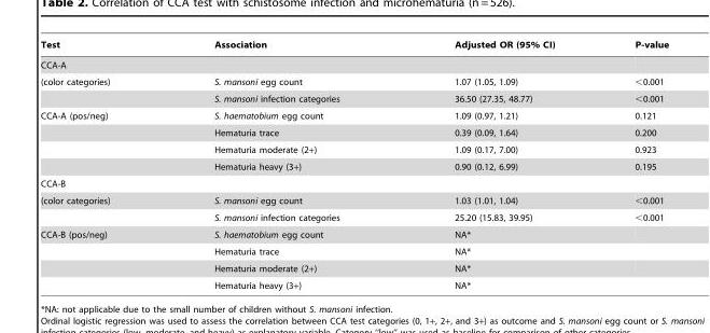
<table><thead><tr><td>Test</td><td>Association</td><td>Adjusted OR (95% CI)</td><td>P-value</td></tr></thead><tbody><tr><td colspan="4">CCA-A</td></tr><tr><td rowspan="2">(color categories)</td><td>S. mansoni egg count</td><td>1.07 (1.05, 1.09)</td><td>&lt;0.001</td></tr><tr><td>S. mansoni infection categories</td><td>36.50 (27.35, 48.77)</td><td>&lt;0.001</td></tr><tr><td rowspan="4">CCA-A (pos/neg)</td><td>S. haematobium egg count</td><td>1.09 (0.97, 1.21)</td><td>0.121</td></tr><tr><td>Hematuria trace</td><td>0.39 (0.09, 1.64)</td><td>0.200</td></tr><tr><td>Hematuria moderate (2+)</td><td>1.09 (0.17, 7.00)</td><td>0.923</td></tr><tr><td>Hematuria heavy (3+)</td><td>0.90 (0.12, 6.99)</td><td>0.195</td></tr><tr><td colspan="4">CCA-B</td></tr><tr><td rowspan="2">(color categories)</td><td>S. mansoni egg count</td><td>1.03 (1.01, 1.04)</td><td>&lt;0.001</td></tr><tr><td>S. mansoni infection categories</td><td>25.20 (15.83, 39.95)</td><td>&lt;0.001</td></tr><tr><td rowspan="4">CCA-B (pos/neg)</td><td>S. haematobium egg count</td><td>NA*</td><td></td></tr><tr><td>Hematuria trace</td><td>NA*</td><td></td></tr><tr><td>Hematuria moderate (2+)</td><td>NA*</td><td></td></tr><tr><td>Hematuria heavy (3+)</td><td>NA*</td><td></td></tr></tbody></table>